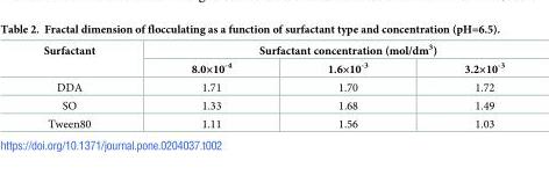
<table><thead><tr><td rowspan="2">Surfactant</td><td colspan="3">Surfactant concentration (mol/dm<sup>3</sup>)</td></tr><tr><td>8.0×10<sup>-4</sup></td><td>1.6×10<sup>-3</sup></td><td>3.2×10<sup>-3</sup></td></tr></thead><tbody><tr><td>DDA</td><td>1.71</td><td>1.70</td><td>1.72</td></tr><tr><td>SO</td><td>1.33</td><td>1.68</td><td>1.49</td></tr><tr><td>Tween80</td><td>1.11</td><td>1.56</td><td>1.03</td></tr></tbody></table>